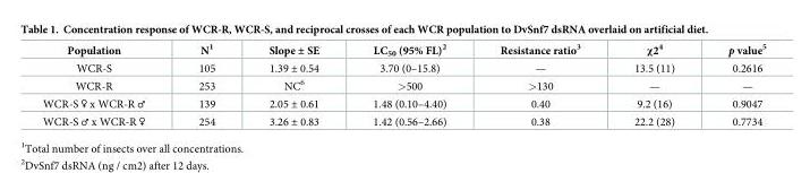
<table><thead><tr><td>Population</td><td>N<sup>1</sup></td><td>Slope ± SE</td><td>LC<sub>50</sub> (95% FL)<sup>2</sup></td><td>Resistance ratio<sup>3</sup></td><td>χ2<sup>4</sup></td><td>p value<sup>5</sup></td></tr></thead><tbody><tr><td>WCR-S</td><td>105</td><td>1.39 ± 0.54</td><td>3.70 (0–15.8)</td><td>—</td><td>13.5 (11)</td><td>0.2616</td></tr><tr><td>WCR-R</td><td>253</td><td>NC<sup>6</sup></td><td>&gt;500</td><td>&gt;130</td><td>—</td><td>—</td></tr><tr><td>WCR-S ♀ x WCR-R ♂</td><td>139</td><td>2.05 ± 0.61</td><td>1.48 (0.10–4.40)</td><td>0.40</td><td>9.2 (16)</td><td>0.9047</td></tr><tr><td>WCR-S ♂ x WCR-R ♀</td><td>254</td><td>3.26 ± 0.83</td><td>1.42 (0.56–2.66)</td><td>0.38</td><td>22.2 (28)</td><td>0.7734</td></tr></tbody></table>